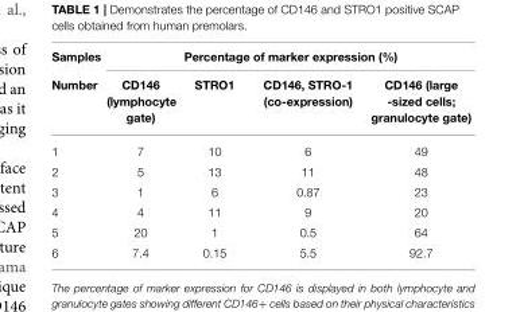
<table><thead><tr><td rowspan="2">Samples Number</td><td colspan="4">Percentage of marker expression (%)</td></tr><tr><td>CD146 (lymphocyte gate)</td><td>STRO1</td><td>CD146, STRO-1 (co-expression)</td><td>CD146 (large -sized cells; granulocyte gate)</td></tr></thead><tbody><tr><td>1</td><td>7</td><td>10</td><td>6</td><td>49</td></tr><tr><td>2</td><td>5</td><td>13</td><td>11</td><td>48</td></tr><tr><td>3</td><td>1</td><td>6</td><td>0.87</td><td>23</td></tr><tr><td>4</td><td>4</td><td>11</td><td>9</td><td>20</td></tr><tr><td>5</td><td>20</td><td>1</td><td>0.5</td><td>64</td></tr><tr><td>6</td><td>7.4</td><td>0.15</td><td>5.5</td><td>92.7</td></tr></tbody></table>